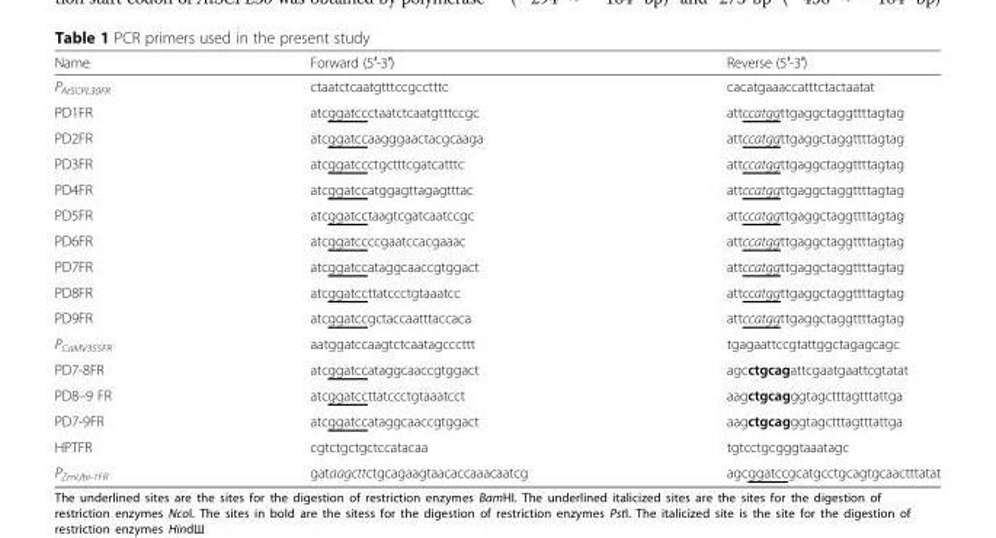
<table><thead><tr><td>Name</td><td>Forward (5′-3′)</td><td>Reverse (5′-3′)</td></tr></thead><tbody><tr><td>P<sub>AtSCPL30FR</sub></td><td>ctaatctcaatgtttccgcctttc</td><td>cacatgaaaccatttctactaatat</td></tr><tr><td>PD1FR</td><td>atcggatccctaatctcaatgtttccgc</td><td>attccatggttgaggctaggttttagtag</td></tr><tr><td>PD2FR</td><td>atcggatccaagggaactacgcaaga</td><td>attccatggttgaggctaggttttagtag</td></tr><tr><td>PD3FR</td><td>atcggatccctgctttcgatcatttc</td><td>attccatggttgaggctaggttttagtag</td></tr><tr><td>PD4FR</td><td>atcggatccatggagttagagtttac</td><td>attccatggttgaggctaggttttagtag</td></tr><tr><td>PD5FR</td><td>atcggatcctaagtcgatcaatccgc</td><td>attccatggttgaggctaggttttagtag</td></tr><tr><td>PD6FR</td><td>atcggatccccgaatccacgaaac</td><td>attccatggttgaggctaggttttagtag</td></tr><tr><td>PD7FR</td><td>atcggatccataggcaaccgtggact</td><td>attccatggttgaggctaggttttagtag</td></tr><tr><td>PD8FR</td><td>atcggatccttatccctgtaaatcc</td><td>attccatggttgaggctaggttttagtag</td></tr><tr><td>PD9FR</td><td>atcggatccgctaccaatttaccaca</td><td>attccatggttgaggctaggttttagtag</td></tr><tr><td>P<sub>CaMV35SFR</sub></td><td>aatggatccaagtctcaatagcccttt</td><td>tgagaattccgtattggctagagcagc</td></tr><tr><td>PD7-8FR</td><td>atcggatccataggcaaccgtggact</td><td>agcctgcagattcgaatgaattcgtatat</td></tr><tr><td>PD8–9 FR</td><td>atcggatccttatccctgtaaatcct</td><td>aagctgcagggtagctttagtttattga</td></tr><tr><td>PD7-9FR</td><td>atcggatccataggcaaccgtggact</td><td>aagctgcagggtagctttagtttattga</td></tr><tr><td>HPTFR</td><td>cgtctgctgctccatacaa</td><td>tgtcctgcgggtaaatagc</td></tr><tr><td>P<sub>ZmUbi-1FR</sub></td><td>gataagcttctgcagaagtaacaccaaacaatcg</td><td>agcggatccgcatgcctgcagtgcaactttatat</td></tr></tbody></table>